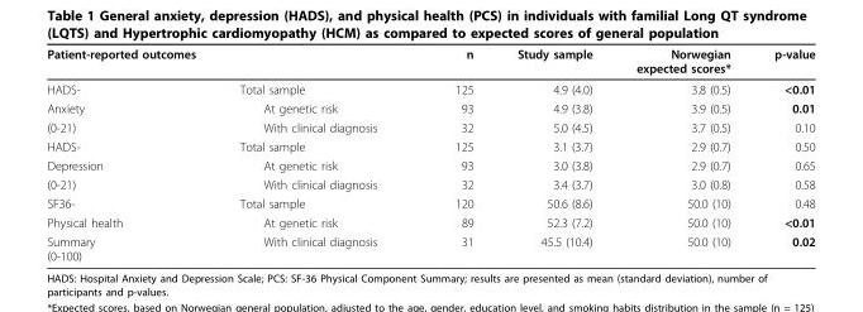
<table><thead><tr><td>Patient-reported outcomes</td><td></td><td>n</td><td>Study sample</td><td>Norwegian expected scores*</td><td>p-value</td></tr></thead><tbody><tr><td>HADS-</td><td>Total sample</td><td>125</td><td>4.9 (4.0)</td><td>3.8 (0.5)</td><td>&lt;0.01</td></tr><tr><td>Anxiety</td><td>At genetic risk</td><td>93</td><td>4.9 (3.8)</td><td>3.9 (0.5)</td><td>0.01</td></tr><tr><td>(0-21)</td><td>With clinical diagnosis</td><td>32</td><td>5.0 (4.5)</td><td>3.7 (0.5)</td><td>0.10</td></tr><tr><td>HADS-</td><td>Total sample</td><td>125</td><td>3.1 (3.7)</td><td>2.9 (0.7)</td><td>0.50</td></tr><tr><td>Depression</td><td>At genetic risk</td><td>93</td><td>3.0 (3.8)</td><td>2.9 (0.7)</td><td>0.65</td></tr><tr><td>(0-21)</td><td>With clinical diagnosis</td><td>32</td><td>3.4 (3.7)</td><td>3.0 (0.8)</td><td>0.58</td></tr><tr><td>SF36-</td><td>Total sample</td><td>120</td><td>50.6 (8.6)</td><td>50.0 (10)</td><td>0.48</td></tr><tr><td>Physical health</td><td>At genetic risk</td><td>89</td><td>52.3 (7.2)</td><td>50.0 (10)</td><td>&lt;0.01</td></tr><tr><td>Summary (0-100)</td><td>With clinical diagnosis</td><td>31</td><td>45.5 (10.4)</td><td>50.0 (10)</td><td>0.02</td></tr></tbody></table>